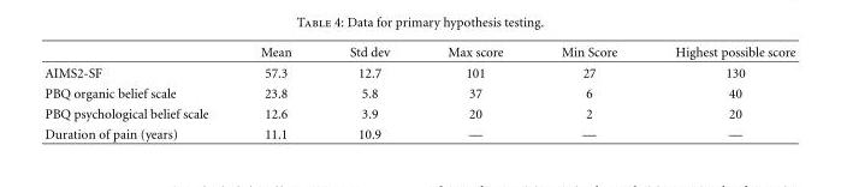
<table><thead><tr><td></td><td>Mean</td><td>Std dev</td><td>Max score</td><td>Min Score</td><td>Highest possible score</td></tr></thead><tbody><tr><td>AIMS2-SF</td><td>57.3</td><td>12.7</td><td>101</td><td>27</td><td>130</td></tr><tr><td>PBQ organic belief scale</td><td>23.8</td><td>5.8</td><td>37</td><td>6</td><td>40</td></tr><tr><td>PBQ psychological belief scale</td><td>12.6</td><td>3.9</td><td>20</td><td>2</td><td>20</td></tr><tr><td>Duration of pain (years)</td><td>11.1</td><td>10.9</td><td>—</td><td>—</td><td>—</td></tr></tbody></table>